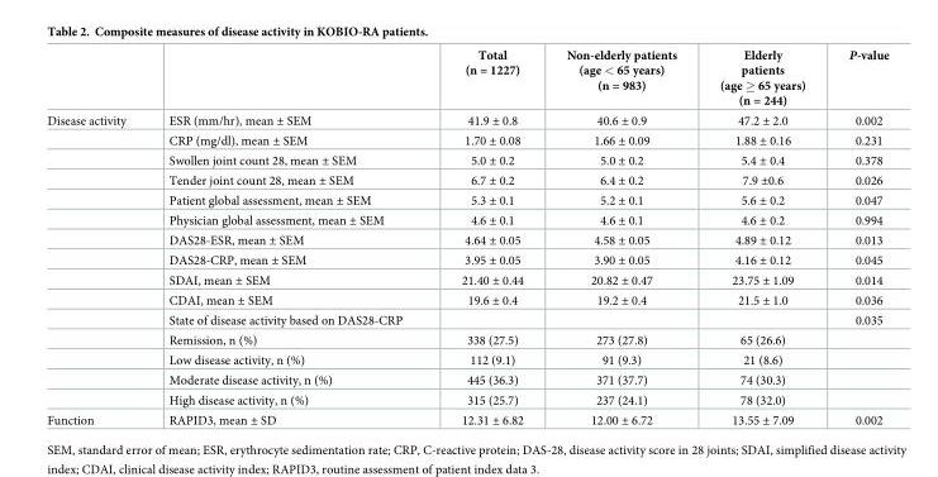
<table><thead><tr><td></td><td></td><td>Total (n = 1227)</td><td>Non-elderly patients (age &lt; 65 years) (n = 983)</td><td>Elderly patients (age ≥ 65 years) (n = 244)</td><td>P-value</td></tr></thead><tbody><tr><td rowspan="15">Disease activity</td><td>ESR (mm/hr), mean ± SEM</td><td>41.9 ± 0.8</td><td>40.6 ± 0.9</td><td>47.2 ± 2.0</td><td>0.002</td></tr><tr><td>CRP (mg/dl), mean ± SEM</td><td>1.70 ± 0.08</td><td>1.66 ± 0.09</td><td>1.88 ± 0.16</td><td>0.231</td></tr><tr><td>Swollen joint count 28, mean ± SEM</td><td>5.0 ± 0.2</td><td>5.0 ± 0.2</td><td>5.4 ± 0.4</td><td>0.378</td></tr><tr><td>Tender joint count 28, mean ± SEM</td><td>6.7 ± 0.2</td><td>6.4 ± 0.2</td><td>7.9 ±0.6</td><td>0.026</td></tr><tr><td>Patient global assessment, mean ± SEM</td><td>5.3 ± 0.1</td><td>5.2 ± 0.1</td><td>5.6 ± 0.2</td><td>0.047</td></tr><tr><td>Physician global assessment, mean ± SEM</td><td>4.6 ± 0.1</td><td>4.6 ± 0.1</td><td>4.6 ± 0.2</td><td>0.994</td></tr><tr><td>DAS28-ESR, mean ± SEM</td><td>4.64 ± 0.05</td><td>4.58 ± 0.05</td><td>4.89 ± 0.12</td><td>0.013</td></tr><tr><td>DAS28-CRP, mean ± SEM</td><td>3.95 ± 0.05</td><td>3.90 ± 0.05</td><td>4.16 ± 0.12</td><td>0.045</td></tr><tr><td>SDAI, mean ± SEM</td><td>21.40 ± 0.44</td><td>20.82 ± 0.47</td><td>23.75 ± 1.09</td><td>0.014</td></tr><tr><td>CDAI, mean ± SEM</td><td>19.6 ± 0.4</td><td>19.2 ± 0.4</td><td>21.5 ± 1.0</td><td>0.036</td></tr><tr><td>State of disease activity based on DAS28-CRP</td><td></td><td></td><td></td><td>0.035</td></tr><tr><td>Remission, n (%)</td><td>338 (27.5)</td><td>273 (27.8)</td><td>65 (26.6)</td><td></td></tr><tr><td>Low disease activity, n (%)</td><td>112 (9.1)</td><td>91 (9.3)</td><td>21 (8.6)</td><td></td></tr><tr><td>Moderate disease activity, n (%)</td><td>445 (36.3)</td><td>371 (37.7)</td><td>74 (30.3)</td><td></td></tr><tr><td>High disease activity, n (%)</td><td>315 (25.7)</td><td>237 (24.1)</td><td>78 (32.0)</td><td></td></tr><tr><td>Function</td><td>RAPID3, mean ± SD</td><td>12.31 ± 6.82</td><td>12.00 ± 6.72</td><td>13.55 ± 7.09</td><td>0.002</td></tr></tbody></table>